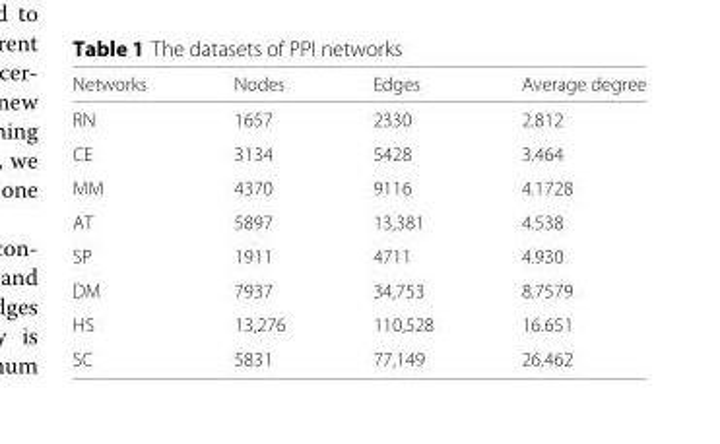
<table><thead><tr><td>Networks</td><td>Nodes</td><td>Edges</td><td>Average degree</td></tr></thead><tbody><tr><td>RN</td><td>1657</td><td>2330</td><td>2.812</td></tr><tr><td>CE</td><td>3134</td><td>5428</td><td>3.464</td></tr><tr><td>MM</td><td>4370</td><td>9116</td><td>4.1728</td></tr><tr><td>AT</td><td>5897</td><td>13,381</td><td>4.538</td></tr><tr><td>SP</td><td>1911</td><td>4711</td><td>4.930</td></tr><tr><td>DM</td><td>7937</td><td>34,753</td><td>8.7579</td></tr><tr><td>HS</td><td>13,276</td><td>110,528</td><td>16.651</td></tr><tr><td>SC</td><td>5831</td><td>77,149</td><td>26.462</td></tr></tbody></table>